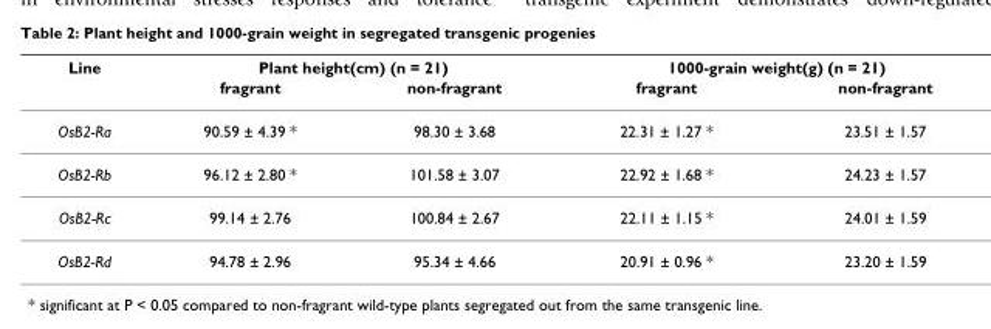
<table><thead><tr><td rowspan="2">Line</td><td colspan="2">Plant height(cm) (n = 21)</td><td colspan="2">1000-grain weight(g) (n = 21)</td></tr><tr><td>fragrant</td><td>non-fragrant</td><td>fragrant</td><td>non-fragrant</td></tr></thead><tbody><tr><td>OsB2-Ra</td><td>90.59 ± 4.39 *</td><td>98.30 ± 3.68</td><td>22.31 ± 1.27 *</td><td>23.51 ± 1.57</td></tr><tr><td>OsB2-Rb</td><td>96.12 ± 2.80 *</td><td>101.58 ± 3.07</td><td>22.92 ± 1.68 *</td><td>24.23 ± 1.57</td></tr><tr><td>OsB2-Rc</td><td>99.14 ± 2.76</td><td>100.84 ± 2.67</td><td>22.11 ± 1.15 *</td><td>24.01 ± 1.59</td></tr><tr><td>OsB2-Rd</td><td>94.78 ± 2.96</td><td>95.34 ± 4.66</td><td>20.91 ± 0.96 *</td><td>23.20 ± 1.59</td></tr></tbody></table>